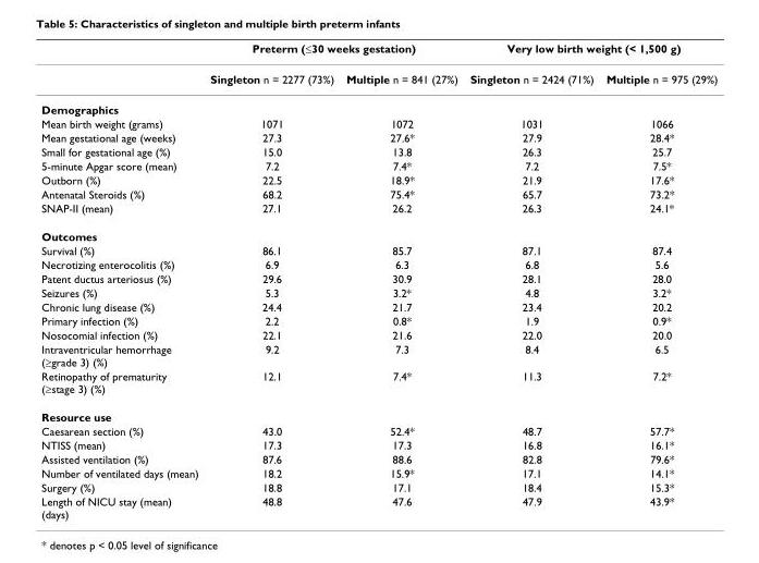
<table><thead><tr><td rowspan="2"></td><td colspan="2">Preterm (≤30 weeks gestation)</td><td colspan="2">Very low birth weight (&lt; 1,500 g)</td></tr><tr><td>Singleton n = 2277 (73%)</td><td>Multiple n = 841 (27%)</td><td>Singleton n = 2424 (71%)</td><td>Multiple n = 975 (29%)</td></tr></thead><tbody><tr><td colspan="5">Demographics</td></tr><tr><td>Mean birth weight (grams)</td><td>1071</td><td>1072</td><td>1031</td><td>1066</td></tr><tr><td>Mean gestational age (weeks)</td><td>27.3</td><td>27.6*</td><td>27.9</td><td>28.4*</td></tr><tr><td>Small for gestational age (%)</td><td>15.0</td><td>13.8</td><td>26.3</td><td>25.7</td></tr><tr><td>5-minute Apgar score (mean)</td><td>7.2</td><td>7.4*</td><td>7.2</td><td>7.5*</td></tr><tr><td>Outborn (%)</td><td>22.5</td><td>18.9*</td><td>21.9</td><td>17.6*</td></tr><tr><td>Antenatal Steroids (%)</td><td>68.2</td><td>75.4*</td><td>65.7</td><td>73.2*</td></tr><tr><td>SNAP-II (mean)</td><td>27.1</td><td>26.2</td><td>26.3</td><td>24.1*</td></tr><tr><td colspan="5">Outcomes</td></tr><tr><td>Survival (%)</td><td>86.1</td><td>85.7</td><td>87.1</td><td>87.4</td></tr><tr><td>Necrotizing enterocolitis (%)</td><td>6.9</td><td>6.3</td><td>6.8</td><td>5.6</td></tr><tr><td>Patent ductus arteriosus (%)</td><td>29.6</td><td>30.9</td><td>28.1</td><td>28.0</td></tr><tr><td>Seizures (%)</td><td>5.3</td><td>3.2*</td><td>4.8</td><td>3.2*</td></tr><tr><td>Chronic lung disease (%)</td><td>24.4</td><td>21.7</td><td>23.4</td><td>20.2</td></tr><tr><td>Primary infection (%)</td><td>2.2</td><td>0.8*</td><td>1.9</td><td>0.9*</td></tr><tr><td>Nosocomial infection (%)</td><td>22.1</td><td>21.6</td><td>22.0</td><td>20.0</td></tr><tr><td>Intraventricular hemorrhage (≥grade 3) (%)</td><td>9.2</td><td>7.3</td><td>8.4</td><td>6.5</td></tr><tr><td>Retinopathy of prematurity (≥stage 3) (%)</td><td>12.1</td><td>7.4*</td><td>11.3</td><td>7.2*</td></tr><tr><td colspan="5">Resource use</td></tr><tr><td>Caesarean section (%)</td><td>43.0</td><td>52.4*</td><td>48.7</td><td>57.7*</td></tr><tr><td>NTISS (mean)</td><td>17.3</td><td>17.3</td><td>16.8</td><td>16.1*</td></tr><tr><td>Assisted ventilation (%)</td><td>87.6</td><td>88.6</td><td>82.8</td><td>79.6*</td></tr><tr><td>Number of ventilated days (mean)</td><td>18.2</td><td>15.9*</td><td>17.1</td><td>14.1*</td></tr><tr><td>Surgery (%)</td><td>18.8</td><td>17.1</td><td>18.4</td><td>15.3*</td></tr><tr><td>Length of NICU stay (mean) (days)</td><td>48.8</td><td>47.6</td><td>47.9</td><td>43.9*</td></tr></tbody></table>